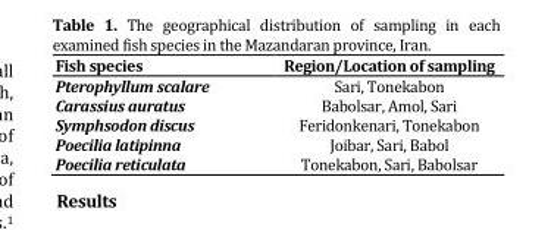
<table><thead><tr><td>Fish species</td><td>Region/Location of sampling</td></tr></thead><tbody><tr><td>Pterophyllum scalare</td><td>Sari, Tonekabon</td></tr><tr><td>Carassius auratus</td><td>Babolsar, Amol, Sari</td></tr><tr><td>Symphsodon discus</td><td>Feridonkenari, Tonekabon</td></tr><tr><td>Poecilia latipinna</td><td>Joibar, Sari, Babol</td></tr><tr><td>Poecilia reticulata</td><td>Tonekabon, Sari, Babolsar</td></tr></tbody></table>